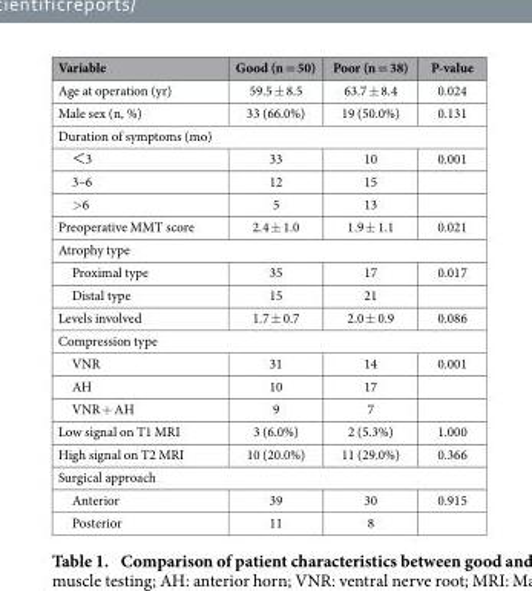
<table><thead><tr><td>Variable</td><td>Good (n = 50)</td><td>Poor (n = 38)</td><td>P-value</td></tr></thead><tbody><tr><td>Age at operation (yr)</td><td>59.5 ± 8.5</td><td>63.7 ± 8.4</td><td>0.024</td></tr><tr><td>Male sex (n, %)</td><td>33 (66.0%)</td><td>19 (50.0%)</td><td>0.131</td></tr><tr><td colspan="4">Duration of symptoms (mo)</td></tr><tr><td>＜ 3</td><td>33</td><td>10</td><td>0.001</td></tr><tr><td>3–6</td><td>12</td><td>15</td><td></td></tr><tr><td>&gt; 6</td><td>5</td><td>13</td><td></td></tr><tr><td>Preoperative MMT score</td><td>2.4 ± 1.0</td><td>1.9 ± 1.1</td><td>0.021</td></tr><tr><td colspan="4">Atrophy type</td></tr><tr><td>Proximal type</td><td>35</td><td>17</td><td>0.017</td></tr><tr><td>Distal type</td><td>15</td><td>21</td><td></td></tr><tr><td>Levels involved</td><td>1.7 ± 0.7</td><td>2.0 ± 0.9</td><td>0.086</td></tr><tr><td colspan="4">Compression type</td></tr><tr><td>VNR</td><td>31</td><td>14</td><td>0.001</td></tr><tr><td>AH</td><td>10</td><td>17</td><td></td></tr><tr><td>VNR + AH</td><td>9</td><td>7</td><td></td></tr><tr><td>Low signal on T1 MRI</td><td>3 (6.0%)</td><td>2 (5.3%)</td><td>1.000</td></tr><tr><td>High signal on T2 MRI</td><td>10 (20.0%)</td><td>11 (29.0%)</td><td>0.366</td></tr><tr><td colspan="4">Surgical approach</td></tr><tr><td>Anterior</td><td>39</td><td>30</td><td>0.915</td></tr><tr><td>Posterior</td><td>11</td><td>8</td><td></td></tr></tbody></table>